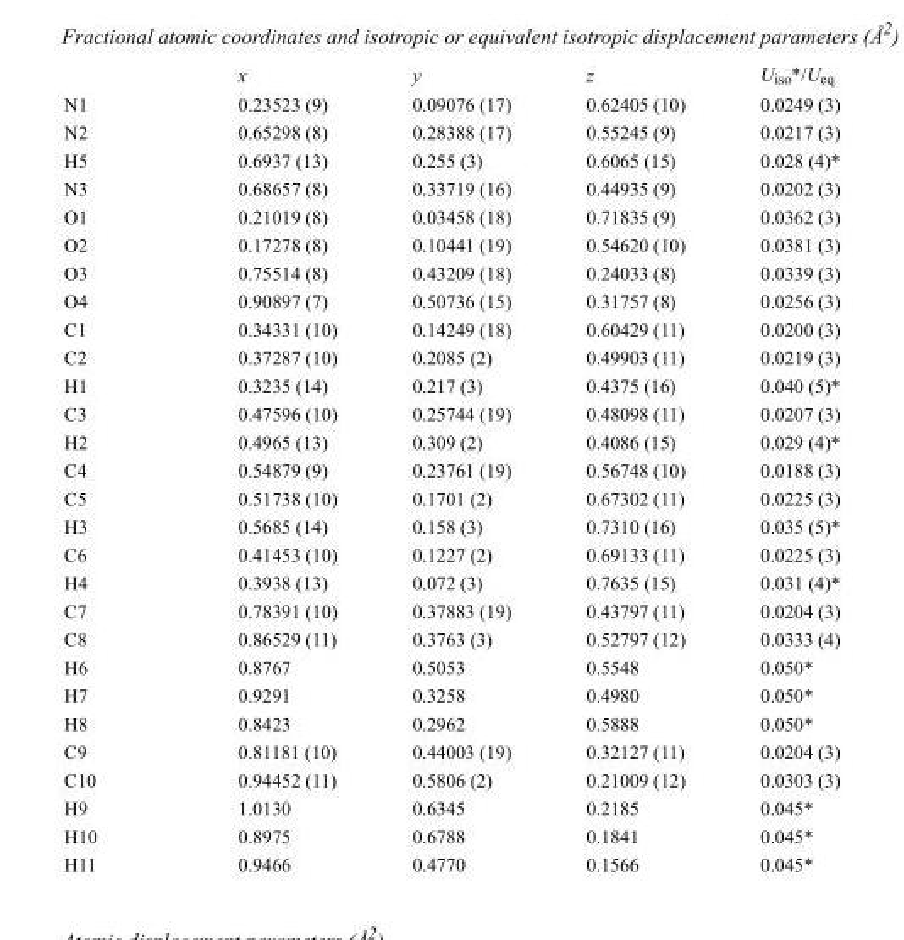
<table><thead><tr><td></td><td>x</td><td>y</td><td>z</td><td>U<sub>iso</sub>*/U<sub>eq</sub></td></tr></thead><tbody><tr><td>N1</td><td>0.23523 (9)</td><td>0.09076 (17)</td><td>0.62405 (10)</td><td>0.0249 (3)</td></tr><tr><td>N2</td><td>0.65298 (8)</td><td>0.28388 (17)</td><td>0.55245 (9)</td><td>0.0217 (3)</td></tr><tr><td>H5</td><td>0.6937 (13)</td><td>0.255 (3)</td><td>0.6065 (15)</td><td>0.028 (4)*</td></tr><tr><td>N3</td><td>0.68657 (8)</td><td>0.33719 (16)</td><td>0.44935 (9)</td><td>0.0202 (3)</td></tr><tr><td>O1</td><td>0.21019 (8)</td><td>0.03458 (18)</td><td>0.71835 (9)</td><td>0.0362 (3)</td></tr><tr><td>O2</td><td>0.17278 (8)</td><td>0.10441 (19)</td><td>0.54620 (10)</td><td>0.0381 (3)</td></tr><tr><td>O3</td><td>0.75514 (8)</td><td>0.43209 (18)</td><td>0.24033 (8)</td><td>0.0339 (3)</td></tr><tr><td>O4</td><td>0.90897 (7)</td><td>0.50736 (15)</td><td>0.31757 (8)</td><td>0.0256 (3)</td></tr><tr><td>C1</td><td>0.34331 (10)</td><td>0.14249 (18)</td><td>0.60429 (11)</td><td>0.0200 (3)</td></tr><tr><td>C2</td><td>0.37287 (10)</td><td>0.2085 (2)</td><td>0.49903 (11)</td><td>0.0219 (3)</td></tr><tr><td>H1</td><td>0.3235 (14)</td><td>0.217 (3)</td><td>0.4375 (16)</td><td>0.040 (5)*</td></tr><tr><td>C3</td><td>0.47596 (10)</td><td>0.25744 (19)</td><td>0.48098 (11)</td><td>0.0207 (3)</td></tr><tr><td>H2</td><td>0.4965 (13)</td><td>0.309 (2)</td><td>0.4086 (15)</td><td>0.029 (4)*</td></tr><tr><td>C4</td><td>0.54879 (9)</td><td>0.23761 (19)</td><td>0.56748 (10)</td><td>0.0188 (3)</td></tr><tr><td>C5</td><td>0.51738 (10)</td><td>0.1701 (2)</td><td>0.67302 (11)</td><td>0.0225 (3)</td></tr><tr><td>H3</td><td>0.5685 (14)</td><td>0.158 (3)</td><td>0.7310 (16)</td><td>0.035 (5)*</td></tr><tr><td>C6</td><td>0.41453 (10)</td><td>0.1227 (2)</td><td>0.69133 (11)</td><td>0.0225 (3)</td></tr><tr><td>H4</td><td>0.3938 (13)</td><td>0.072 (3)</td><td>0.7635 (15)</td><td>0.031 (4)*</td></tr><tr><td>C7</td><td>0.78391 (10)</td><td>0.37883 (19)</td><td>0.43797 (11)</td><td>0.0204 (3)</td></tr><tr><td>C8</td><td>0.86529 (11)</td><td>0.3763 (3)</td><td>0.52797 (12)</td><td>0.0333 (4)</td></tr><tr><td>H6</td><td>0.8767</td><td>0.5053</td><td>0.5548</td><td>0.050*</td></tr><tr><td>H7</td><td>0.9291</td><td>0.3258</td><td>0.4980</td><td>0.050*</td></tr><tr><td>H8</td><td>0.8423</td><td>0.2962</td><td>0.5888</td><td>0.050*</td></tr><tr><td>C9</td><td>0.81181 (10)</td><td>0.44003 (19)</td><td>0.32127 (11)</td><td>0.0204 (3)</td></tr><tr><td>C10</td><td>0.94452 (11)</td><td>0.5806 (2)</td><td>0.21009 (12)</td><td>0.0303 (3)</td></tr><tr><td>H9</td><td>1.0130</td><td>0.6345</td><td>0.2185</td><td>0.045*</td></tr><tr><td>H10</td><td>0.8975</td><td>0.6788</td><td>0.1841</td><td>0.045*</td></tr><tr><td>H11</td><td>0.9466</td><td>0.4770</td><td>0.1566</td><td>0.045*</td></tr></tbody></table>